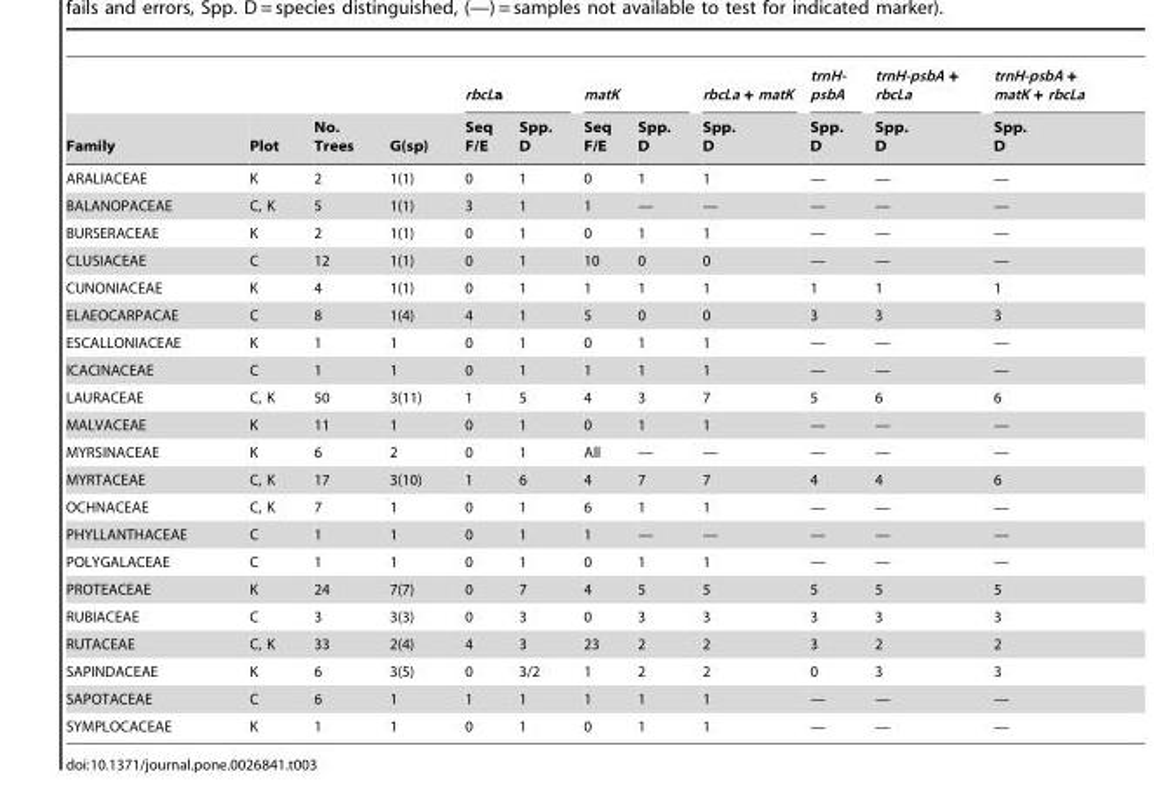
<table><thead><tr><td rowspan="2">Family</td><td rowspan="2">Plot</td><td rowspan="2">No. Trees</td><td rowspan="2">G(sp)</td><td colspan="2">rbcLa</td><td colspan="2">matK</td><td rowspan="2">rbcLa + matK Spp. D</td><td rowspan="2">trnH- psbA Spp. D</td><td rowspan="2">trnH-psbA + rbcLa Spp. D</td><td rowspan="2">trnH-psbA + matK + rbcLa Spp. D</td></tr><tr><td>Seq F/E</td><td>Spp. D</td><td>Seq F/E</td><td>Spp. D</td></tr></thead><tbody><tr><td>ARALIACEAE</td><td>K</td><td>2</td><td>1(1)</td><td>0</td><td>1</td><td>0</td><td>1</td><td>1</td><td>—</td><td>—</td><td>—</td></tr><tr><td>BALANOPACEAE</td><td>C, K</td><td>5</td><td>1(1)</td><td>3</td><td>1</td><td>1</td><td>—</td><td>—</td><td>—</td><td>—</td><td>—</td></tr><tr><td>BURSERACEAE</td><td>K</td><td>2</td><td>1(1)</td><td>0</td><td>1</td><td>0</td><td>1</td><td>1</td><td>—</td><td>—</td><td>—</td></tr><tr><td>CLUSIACEAE</td><td>C</td><td>12</td><td>1(1)</td><td>0</td><td>1</td><td>10</td><td>0</td><td>0</td><td>—</td><td>—</td><td>—</td></tr><tr><td>CUNONIACEAE</td><td>K</td><td>4</td><td>1(1)</td><td>0</td><td>1</td><td>1</td><td>1</td><td>1</td><td>1</td><td>1</td><td>1</td></tr><tr><td>ELAEOCARPACAE</td><td>C</td><td>8</td><td>1(4)</td><td>4</td><td>1</td><td>5</td><td>0</td><td>0</td><td>3</td><td>3</td><td>3</td></tr><tr><td>ESCALLONIACEAE</td><td>K</td><td>1</td><td>1</td><td>0</td><td>1</td><td>0</td><td>1</td><td>1</td><td>—</td><td>—</td><td>—</td></tr><tr><td>ICACINACEAE</td><td>C</td><td>1</td><td>1</td><td>0</td><td>1</td><td>1</td><td>1</td><td>1</td><td>—</td><td>—</td><td>—</td></tr><tr><td>LAURACEAE</td><td>C, K</td><td>50</td><td>3(11)</td><td>1</td><td>5</td><td>4</td><td>3</td><td>7</td><td>5</td><td>6</td><td>6</td></tr><tr><td>MALVACEAE</td><td>K</td><td>11</td><td>1</td><td>0</td><td>1</td><td>0</td><td>1</td><td>1</td><td>—</td><td>—</td><td>—</td></tr><tr><td>MYRSINACEAE</td><td>K</td><td>6</td><td>2</td><td>0</td><td>1</td><td>All</td><td>—</td><td>—</td><td>—</td><td>—</td><td>—</td></tr><tr><td>MYRTACEAE</td><td>C, K</td><td>17</td><td>3(10)</td><td>1</td><td>6</td><td>4</td><td>7</td><td>7</td><td>4</td><td>4</td><td>6</td></tr><tr><td>OCHNACEAE</td><td>C, K</td><td>7</td><td>1</td><td>0</td><td>1</td><td>6</td><td>1</td><td>1</td><td>—</td><td>—</td><td>—</td></tr><tr><td>PHYLLANTHACEAE</td><td>C</td><td>1</td><td>1</td><td>0</td><td>1</td><td>1</td><td>—</td><td>—</td><td>—</td><td>—</td><td>—</td></tr><tr><td>POLYGALACEAE</td><td>C</td><td>1</td><td>1</td><td>0</td><td>1</td><td>0</td><td>1</td><td>1</td><td>—</td><td>—</td><td>—</td></tr><tr><td>PROTEACEAE</td><td>K</td><td>24</td><td>7(7)</td><td>0</td><td>7</td><td>4</td><td>5</td><td>5</td><td>5</td><td>5</td><td>5</td></tr><tr><td>RUBIACEAE</td><td>C</td><td>3</td><td>3(3)</td><td>0</td><td>3</td><td>0</td><td>3</td><td>3</td><td>3</td><td>3</td><td>3</td></tr><tr><td>RUTACEAE</td><td>C, K</td><td>33</td><td>2(4)</td><td>4</td><td>3</td><td>23</td><td>2</td><td>2</td><td>3</td><td>2</td><td>2</td></tr><tr><td>SAPINDACEAE</td><td>K</td><td>6</td><td>3(5)</td><td>0</td><td>3/2</td><td>1</td><td>2</td><td>2</td><td>0</td><td>3</td><td>3</td></tr><tr><td>SAPOTACEAE</td><td>C</td><td>6</td><td>1</td><td>1</td><td>1</td><td>1</td><td>1</td><td>1</td><td>—</td><td>—</td><td>—</td></tr><tr><td>SYMPLOCACEAE</td><td>K</td><td>1</td><td>1</td><td>0</td><td>1</td><td>0</td><td>1</td><td>1</td><td>—</td><td>—</td><td>—</td></tr></tbody></table>